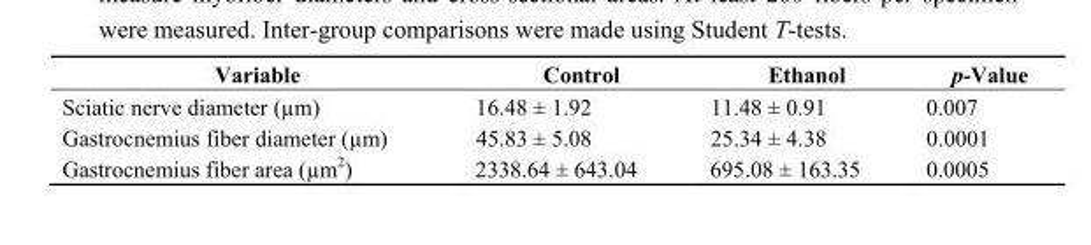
<table><thead><tr><td>Variable</td><td>Control</td><td>Ethanol</td><td>p-Value</td></tr></thead><tbody><tr><td>Sciatic nerve diameter (µm)</td><td>16.48 ± 1.92</td><td>11.48 ± 0.91</td><td>0.007</td></tr><tr><td>Gastrocnemius fiber diameter (µm)</td><td>45.83 ± 5.08</td><td>25.34 ± 4.38</td><td>0.0001</td></tr><tr><td>Gastrocnemius fiber area (µm<sup>2</sup>)</td><td>2338.64 ± 643.04</td><td>695.08 ± 163.35</td><td>0.0005</td></tr></tbody></table>